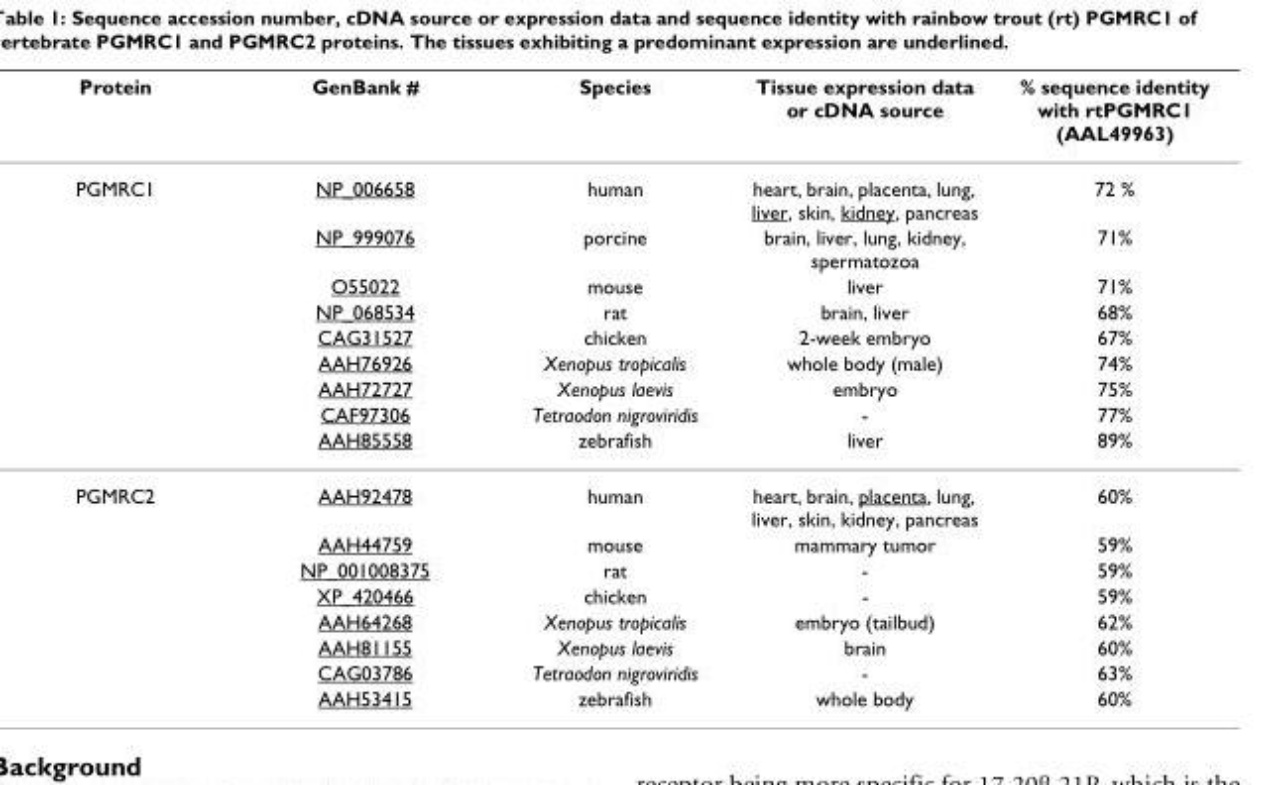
<table><thead><tr><td>Protein</td><td>GenBank #</td><td>Species</td><td>Tissue expression data or cDNA source</td><td>% sequence identity with rtPGMRC1 (AAL49963)</td></tr></thead><tbody><tr><td rowspan="9">PGMRC1</td><td>NP_006658</td><td>human</td><td>heart, brain, placenta, lung, liver, skin, kidney, pancreas</td><td>72 %</td></tr><tr><td>NP_999076</td><td>porcine</td><td>brain, liver, lung, kidney, spermatozoa</td><td>71%</td></tr><tr><td>O55022</td><td>mouse</td><td>liver</td><td>71%</td></tr><tr><td>NP_068534</td><td>rat</td><td>brain, liver</td><td>68%</td></tr><tr><td>CAG31527</td><td>chicken</td><td>2-week embryo</td><td>67%</td></tr><tr><td>AAH76926</td><td>Xenopus tropicalis</td><td>whole body (male)</td><td>74%</td></tr><tr><td>AAH72727</td><td>Xenopus laevis</td><td>embryo</td><td>75%</td></tr><tr><td>CAF97306</td><td>Tetraodon nigroviridis</td><td>-</td><td>77%</td></tr><tr><td>AAH85558</td><td>zebrafish</td><td>liver</td><td>89%</td></tr><tr><td rowspan="8">PGMRC2</td><td>AAH92478</td><td>human</td><td>heart, brain, placenta, lung, liver, skin, kidney, pancreas</td><td>60%</td></tr><tr><td>AAH44759</td><td>mouse</td><td>mammary tumor</td><td>59%</td></tr><tr><td>NP_001008375</td><td>rat</td><td>-</td><td>59%</td></tr><tr><td>XP_420466</td><td>chicken</td><td>-</td><td>59%</td></tr><tr><td>AAH64268</td><td>Xenopus tropicalis</td><td>embryo (tailbud)</td><td>62%</td></tr><tr><td>AAH81155</td><td>Xenopus laevis</td><td>brain</td><td>60%</td></tr><tr><td>CAG03786</td><td>Tetraodon nigroviridis</td><td>-</td><td>63%</td></tr><tr><td>AAH53415</td><td>zebrafish</td><td>whole body</td><td>60%</td></tr></tbody></table>